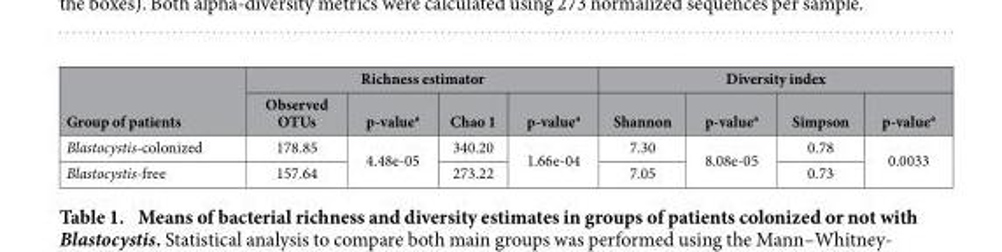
<table><thead><tr><td rowspan="2">Group of patients</td><td colspan="4">Richness estimator</td><td colspan="4">Diversity index</td></tr><tr><td>Observed OTUs</td><td>p-value<sup>a</sup></td><td>Chao 1</td><td>p-value<sup>a</sup></td><td>Shannon</td><td>p-value<sup>a</sup></td><td>Simpson</td><td>p-value<sup>a</sup></td></tr></thead><tbody><tr><td>Blastocystis-colonized</td><td>178.85</td><td rowspan="2">4.48e-05</td><td>340.20</td><td rowspan="2">1.66e-04</td><td>7.30</td><td rowspan="2">8.08e-05</td><td>0.78</td><td rowspan="2">0.0033</td></tr><tr><td>Blastocystis-free</td><td>157.64</td><td>273.22</td><td>7.05</td><td>0.73</td></tr></tbody></table>